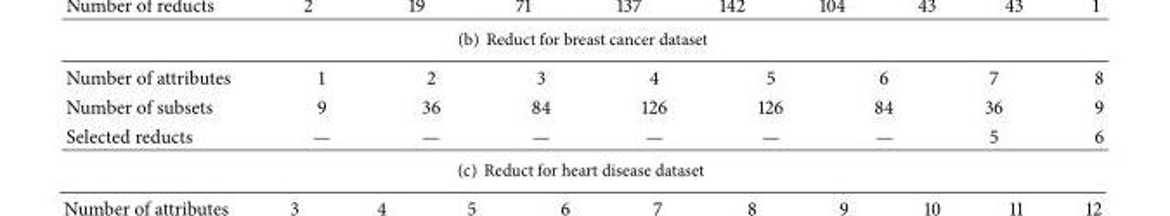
<table><tbody><tr><td>Number of attributes</td><td>1</td><td>2</td><td>3</td><td>4</td><td>5</td><td>6</td><td>7</td><td>8</td></tr><tr><td>Number of subsets</td><td>9</td><td>36</td><td>84</td><td>126</td><td>126</td><td>84</td><td>36</td><td>9</td></tr><tr><td>Selected reducts</td><td>—</td><td>—</td><td>—</td><td>—</td><td>—</td><td>—</td><td>5</td><td>6</td></tr></tbody></table>